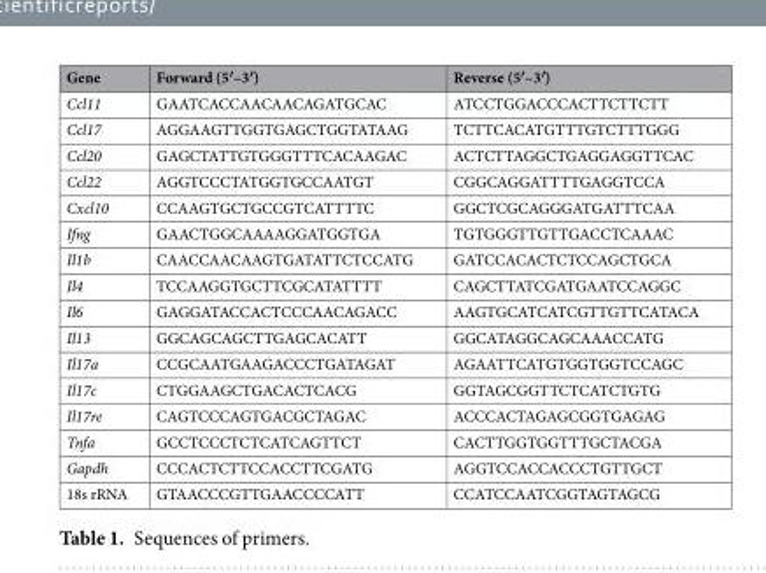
<table><thead><tr><td>Gene</td><td>Forward (5′–3′)</td><td>Reverse (5′–3′)</td></tr></thead><tbody><tr><td>Ccl11</td><td>GAATCACCAACAACAGATGCAC</td><td>ATCCTGGACCCACTTCTTCTT</td></tr><tr><td>Ccl17</td><td>AGGAAGTTGGTGAGCTGGTATAAG</td><td>TCTTCACATGTTTGTCTTTGGG</td></tr><tr><td>Ccl20</td><td>GAGCTATTGTGGGTTTCACAAGAC</td><td>ACTCTTAGGCTGAGGAGGTTCAC</td></tr><tr><td>Ccl22</td><td>AGGTCCCTATGGTGCCAATGT</td><td>CGGCAGGATTTTGAGGTCCA</td></tr><tr><td>Cxcl10</td><td>CCAAGTGCTGCCGTCATTTTC</td><td>GGCTCGCAGGGATGATTTCAA</td></tr><tr><td>Ifng</td><td>GAACTGGCAAAAGGATGGTGA</td><td>TGTGGGTTGTTGACCTCAAAC</td></tr><tr><td>Il1b</td><td>CAACCAACAAGTGATATTCTCCATG</td><td>GATCCACACTCTCCAGCTGCA</td></tr><tr><td>Il4</td><td>TCCAAGGTGCTTCGCATATTTT</td><td>CAGCTTATCGATGAATCCAGGC</td></tr><tr><td>Il6</td><td>GAGGATACCACTCCCAACAGACC</td><td>AAGTGCATCATCGTTGTTCATACA</td></tr><tr><td>Il13</td><td>GGCAGCAGCTTGAGCACATT</td><td>GGCATAGGCAGCAAACCATG</td></tr><tr><td>Il17a</td><td>CCGCAATGAAGACCCTGATAGAT</td><td>AGAATTCATGTGGTGGTCCAGC</td></tr><tr><td>Il17c</td><td>CTGGAAGCTGACACTCACG</td><td>GGTAGCGGTTCTCATCTGTG</td></tr><tr><td>Il17re</td><td>CAGTCCCAGTGACGCTAGAC</td><td>ACCCACTAGAGCGGTGAGAG</td></tr><tr><td>Tnfa</td><td>GCCTCCCTCTCATCAGTTCT</td><td>CACTTGGTGGTTTGCTACGA</td></tr><tr><td>Gapdh</td><td>CCCACTCTTCCACCTTCGATG</td><td>AGGTCCACCACCCTGTTGCT</td></tr><tr><td>18s rRNA</td><td>GTAACCCGTTGAACCCCATT</td><td>CCATCCAATCGGTAGTAGCG</td></tr></tbody></table>